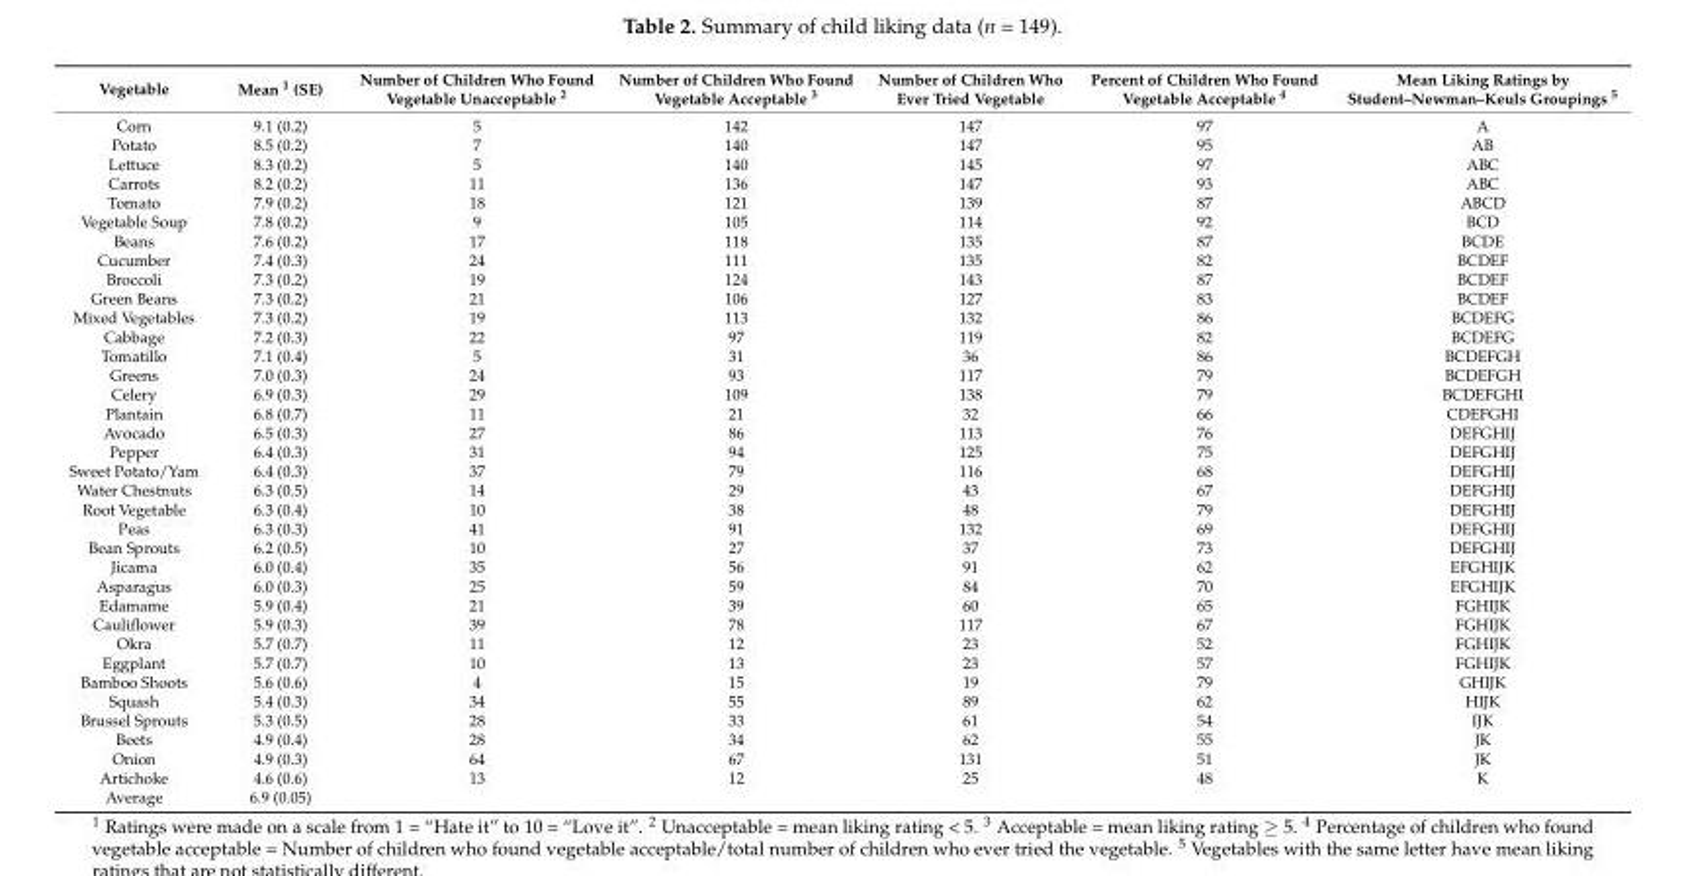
<table><thead><tr><td>Vegetable</td><td>Mean <sup>1</sup> (SE)</td><td>Number of Children Who Found Vegetable Unacceptable <sup>2</sup></td><td>Number of Children Who Found Vegetable Acceptable <sup>3</sup></td><td>Number of Children Who Ever Tried Vegetable</td><td>Percent of Children Who Found Vegetable Acceptable <sup>4</sup></td><td>Mean Liking Ratings by Student–Newman–Keuls Groupings <sup>5</sup></td></tr></thead><tbody><tr><td>Corn</td><td>9.1 (0.2)</td><td>5</td><td>142</td><td>147</td><td>97</td><td>A</td></tr><tr><td>Potato</td><td>8.5 (0.2)</td><td>7</td><td>140</td><td>147</td><td>95</td><td>AB</td></tr><tr><td>Lettuce</td><td>8.3 (0.2)</td><td>5</td><td>140</td><td>145</td><td>97</td><td>ABC</td></tr><tr><td>Carrots</td><td>8.2 (0.2)</td><td>11</td><td>136</td><td>147</td><td>93</td><td>ABC</td></tr><tr><td>Tomato</td><td>7.9 (0.2)</td><td>18</td><td>121</td><td>139</td><td>87</td><td>ABCD</td></tr><tr><td>Vegetable Soup</td><td>7.8 (0.2)</td><td>9</td><td>105</td><td>114</td><td>92</td><td>BCD</td></tr><tr><td>Beans</td><td>7.6 (0.2)</td><td>17</td><td>118</td><td>135</td><td>87</td><td>BCDE</td></tr><tr><td>Cucumber</td><td>7.4 (0.3)</td><td>24</td><td>111</td><td>135</td><td>82</td><td>BCDEF</td></tr><tr><td>Broccoli</td><td>7.3 (0.2)</td><td>19</td><td>124</td><td>143</td><td>87</td><td>BCDEF</td></tr><tr><td>Green Beans</td><td>7.3 (0.2)</td><td>21</td><td>106</td><td>127</td><td>83</td><td>BCDEF</td></tr><tr><td>Mixed Vegetables</td><td>7.3 (0.2)</td><td>19</td><td>113</td><td>132</td><td>86</td><td>BCDEFG</td></tr><tr><td>Cabbage</td><td>7.2 (0.3)</td><td>22</td><td>97</td><td>119</td><td>82</td><td>BCDEFG</td></tr><tr><td>Tomatillo</td><td>7.1 (0.4)</td><td>5</td><td>31</td><td>36</td><td>86</td><td>BCDEFGH</td></tr><tr><td>Greens</td><td>7.0 (0.3)</td><td>24</td><td>93</td><td>117</td><td>79</td><td>BCDEFGH</td></tr><tr><td>Celery</td><td>6.9 (0.3)</td><td>29</td><td>109</td><td>138</td><td>79</td><td>BCDEFGHI</td></tr><tr><td>Plantain</td><td>6.8 (0.7)</td><td>11</td><td>21</td><td>32</td><td>66</td><td>CDEFGHI</td></tr><tr><td>Avocado</td><td>6.5 (0.3)</td><td>27</td><td>86</td><td>113</td><td>76</td><td>DEFGHIJ</td></tr><tr><td>Pepper</td><td>6.4 (0.3)</td><td>31</td><td>94</td><td>125</td><td>75</td><td>DEFGHIJ</td></tr><tr><td>Sweet Potato/Yam</td><td>6.4 (0.3)</td><td>37</td><td>79</td><td>116</td><td>68</td><td>DEFGHIJ</td></tr><tr><td>Water Chestnuts</td><td>6.3 (0.5)</td><td>14</td><td>29</td><td>43</td><td>67</td><td>DEFGHIJ</td></tr><tr><td>Root Vegetable</td><td>6.3 (0.4)</td><td>10</td><td>38</td><td>48</td><td>79</td><td>DEFGHIJ</td></tr><tr><td>Peas</td><td>6.3 (0.3)</td><td>41</td><td>91</td><td>132</td><td>69</td><td>DEFGHIJ</td></tr><tr><td>Bean Sprouts</td><td>6.2 (0.5)</td><td>10</td><td>27</td><td>37</td><td>73</td><td>DEFGHIJ</td></tr><tr><td>Jicama</td><td>6.0 (0.4)</td><td>35</td><td>56</td><td>91</td><td>62</td><td>EFGHIJK</td></tr><tr><td>Asparagus</td><td>6.0 (0.3)</td><td>25</td><td>59</td><td>84</td><td>70</td><td>EFGHIJK</td></tr><tr><td>Edamame</td><td>5.9 (0.4)</td><td>21</td><td>39</td><td>60</td><td>65</td><td>FGHIJK</td></tr><tr><td>Cauliflower</td><td>5.9 (0.3)</td><td>39</td><td>78</td><td>117</td><td>67</td><td>FGHIJK</td></tr><tr><td>Okra</td><td>5.7 (0.7)</td><td>11</td><td>12</td><td>23</td><td>52</td><td>FGHIJK</td></tr><tr><td>Eggplant</td><td>5.7 (0.7)</td><td>10</td><td>13</td><td>23</td><td>57</td><td>FGHIJK</td></tr><tr><td>Bamboo Shoots</td><td>5.6 (0.6)</td><td>4</td><td>15</td><td>19</td><td>79</td><td>GHIJK</td></tr><tr><td>Squash</td><td>5.4 (0.3)</td><td>34</td><td>55</td><td>89</td><td>62</td><td>HIJK</td></tr><tr><td>Brussel Sprouts</td><td>5.3 (0.5)</td><td>28</td><td>33</td><td>61</td><td>54</td><td>IJK</td></tr><tr><td>Beets</td><td>4.9 (0.4)</td><td>28</td><td>34</td><td>62</td><td>55</td><td>JK</td></tr><tr><td>Onion</td><td>4.9 (0.3)</td><td>64</td><td>67</td><td>131</td><td>51</td><td>JK</td></tr><tr><td>Artichoke</td><td>4.6 (0.6)</td><td>13</td><td>12</td><td>25</td><td>48</td><td>K</td></tr><tr><td>Average</td><td>6.9 (0.05)</td><td></td><td></td><td></td><td></td><td></td></tr></tbody></table>